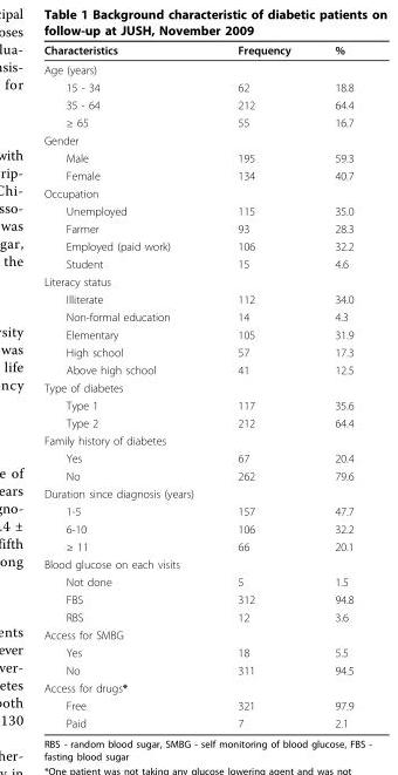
<table><thead><tr><td>Characteristics</td><td>Frequency</td><td>%</td></tr></thead><tbody><tr><td colspan="3">Age (years)</td></tr><tr><td>15 - 34</td><td>62</td><td>18.8</td></tr><tr><td>35 - 64</td><td>212</td><td>64.4</td></tr><tr><td>≥ 65</td><td>55</td><td>16.7</td></tr><tr><td colspan="3">Gender</td></tr><tr><td>Male</td><td>195</td><td>59.3</td></tr><tr><td>Female</td><td>134</td><td>40.7</td></tr><tr><td colspan="3">Occupation</td></tr><tr><td>Unemployed</td><td>115</td><td>35.0</td></tr><tr><td>Farmer</td><td>93</td><td>28.3</td></tr><tr><td>Employed (paid work)</td><td>106</td><td>32.2</td></tr><tr><td>Student</td><td>15</td><td>4.6</td></tr><tr><td colspan="3">Literacy status</td></tr><tr><td>Illiterate</td><td>112</td><td>34.0</td></tr><tr><td>Non-formal education</td><td>14</td><td>4.3</td></tr><tr><td>Elementary</td><td>105</td><td>31.9</td></tr><tr><td>High school</td><td>57</td><td>17.3</td></tr><tr><td>Above high school</td><td>41</td><td>12.5</td></tr><tr><td colspan="3">Type of diabetes</td></tr><tr><td>Type 1</td><td>117</td><td>35.6</td></tr><tr><td>Type 2</td><td>212</td><td>64.4</td></tr><tr><td colspan="3">Family history of diabetes</td></tr><tr><td>Yes</td><td>67</td><td>20.4</td></tr><tr><td>No</td><td>262</td><td>79.6</td></tr><tr><td colspan="3">Duration since diagnosis (years)</td></tr><tr><td>1-5</td><td>157</td><td>47.7</td></tr><tr><td>6-10</td><td>106</td><td>32.2</td></tr><tr><td>≥ 11</td><td>66</td><td>20.1</td></tr><tr><td colspan="3">Blood glucose on each visits</td></tr><tr><td>Not done</td><td>5</td><td>1.5</td></tr><tr><td>FBS</td><td>312</td><td>94.8</td></tr><tr><td>RBS</td><td>12</td><td>3.6</td></tr><tr><td colspan="3">Access for SMBG</td></tr><tr><td>Yes</td><td>18</td><td>5.5</td></tr><tr><td>No</td><td>311</td><td>94.5</td></tr><tr><td colspan="3">Access for drugs*</td></tr><tr><td>Free</td><td>321</td><td>97.9</td></tr><tr><td>Paid</td><td>7</td><td>2.1</td></tr></tbody></table>